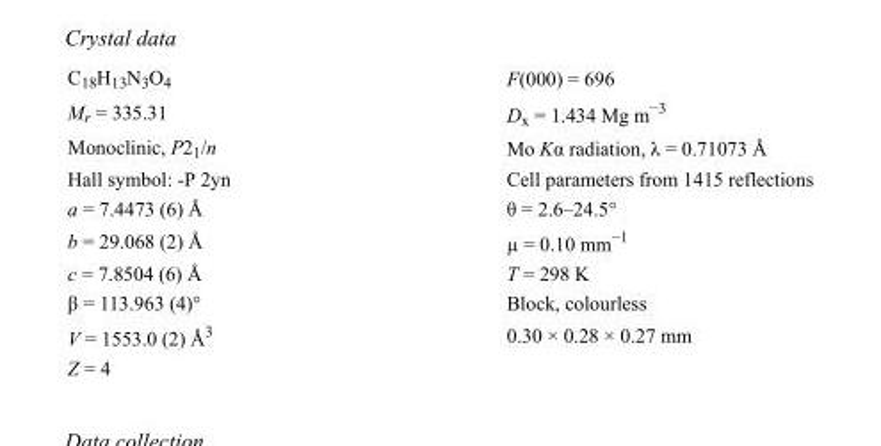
<table><tbody><tr><td>C<sub>18</sub>H<sub>13</sub>N<sub>3</sub>O<sub>4</sub></td><td>F(000) = 696</td></tr><tr><td>M<sub>r</sub> = 335.31</td><td>D<sub>x</sub> = 1.434 Mg m<sup>−3</sup></td></tr><tr><td>Monoclinic, P2<sub>1</sub>/n</td><td>Mo Kα radiation, λ = 0.71073 Å</td></tr><tr><td>Hall symbol: -P 2yn</td><td>Cell parameters from 1415 reflections</td></tr><tr><td>a = 7.4473 (6) Å</td><td>θ = 2.6–24.5°</td></tr><tr><td>b = 29.068 (2) Å</td><td>µ = 0.10 mm<sup>−1</sup></td></tr><tr><td>c = 7.8504 (6) Å</td><td>T = 298 K</td></tr><tr><td>β = 113.963 (4)°</td><td>Block, colourless</td></tr><tr><td>V = 1553.0 (2) Å<sup>3</sup></td><td>0.30 × 0.28 × 0.27 mm</td></tr><tr><td>Z = 4</td><td></td></tr></tbody></table>